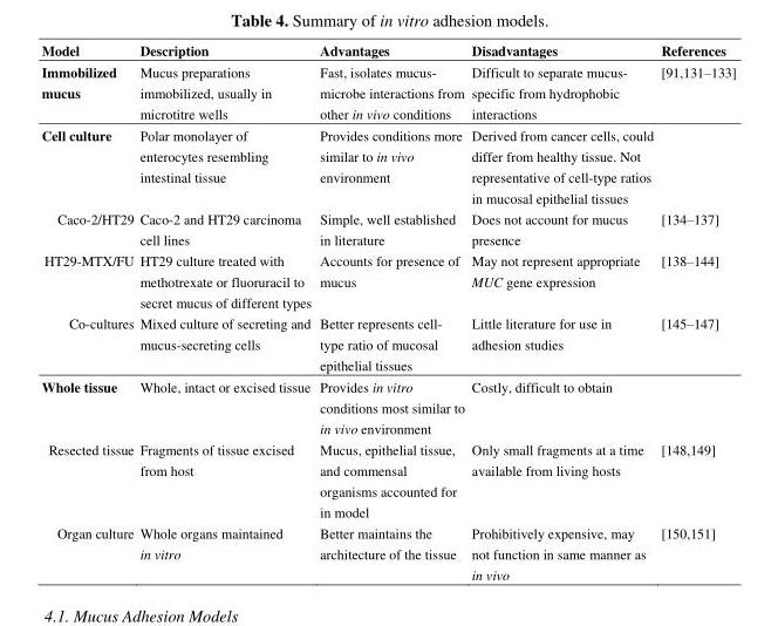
<table><thead><tr><td>Model</td><td>Description</td><td>Advantages</td><td>Disadvantages</td><td>References</td></tr></thead><tbody><tr><td>Immobilized mucus</td><td>Mucus preparations immobilized, usually in microtitre wells</td><td>Fast, isolates mucus- microbe interactions from other in vivo conditions</td><td>Difficult to separate mucus- specific from hydrophobic interactions</td><td>[91,131–133]</td></tr><tr><td>Cell culture</td><td>Polar monolayer of enterocytes resembling intestinal tissue</td><td>Provides conditions more similar to in vivo environment</td><td>Derived from cancer cells, could differ from healthy tissue. Not representative of cell-type ratios in mucosal epithelial tissues</td><td></td></tr><tr><td>Caco-2/HT29</td><td>Caco-2 and HT29 carcinoma cell lines</td><td>Simple, well established in literature</td><td>Does not account for mucus presence</td><td>[134–137]</td></tr><tr><td>HT29-MTX/FU</td><td>HT29 culture treated with methotrexate or fluoruracil to secret mucus of different types</td><td>Accounts for presence of mucus</td><td>May not represent appropriate MUC gene expression</td><td>[138–144]</td></tr><tr><td>Co-cultures</td><td>Mixed culture of secreting and mucus-secreting cells</td><td>Better represents cell- type ratio of mucosal epithelial tissues</td><td>Little literature for use in adhesion studies</td><td>[145–147]</td></tr><tr><td>Whole tissue</td><td>Whole, intact or excised tissue</td><td>Provides in vitro conditions most similar to in vivo environment</td><td>Costly, difficult to obtain</td><td></td></tr><tr><td>Resected tissue</td><td>Fragments of tissue excised from host</td><td>Mucus, epithelial tissue, and commensal organisms accounted for in model</td><td>Only small fragments at a time available from living hosts</td><td>[148,149]</td></tr><tr><td>Organ culture</td><td>Whole organs maintained in vitro</td><td>Better maintains the architecture of the tissue</td><td>Prohibitively expensive, may not function in same manner as in vivo</td><td>[150,151]</td></tr></tbody></table>